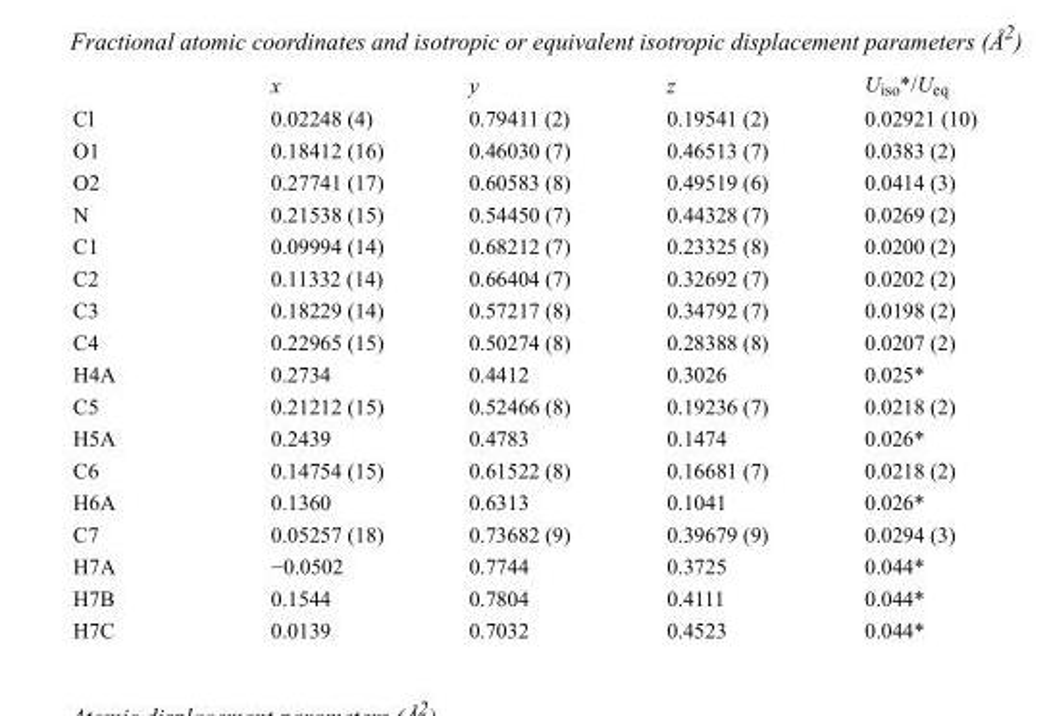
<table><thead><tr><td></td><td>x</td><td>y</td><td>z</td><td>U<sub>iso</sub>*/U<sub>eq</sub></td></tr></thead><tbody><tr><td>Cl</td><td>0.02248 (4)</td><td>0.79411 (2)</td><td>0.19541 (2)</td><td>0.02921 (10)</td></tr><tr><td>O1</td><td>0.18412 (16)</td><td>0.46030 (7)</td><td>0.46513 (7)</td><td>0.0383 (2)</td></tr><tr><td>O2</td><td>0.27741 (17)</td><td>0.60583 (8)</td><td>0.49519 (6)</td><td>0.0414 (3)</td></tr><tr><td>N</td><td>0.21538 (15)</td><td>0.54450 (7)</td><td>0.44328 (7)</td><td>0.0269 (2)</td></tr><tr><td>C1</td><td>0.09994 (14)</td><td>0.68212 (7)</td><td>0.23325 (8)</td><td>0.0200 (2)</td></tr><tr><td>C2</td><td>0.11332 (14)</td><td>0.66404 (7)</td><td>0.32692 (7)</td><td>0.0202 (2)</td></tr><tr><td>C3</td><td>0.18229 (14)</td><td>0.57217 (8)</td><td>0.34792 (7)</td><td>0.0198 (2)</td></tr><tr><td>C4</td><td>0.22965 (15)</td><td>0.50274 (8)</td><td>0.28388 (8)</td><td>0.0207 (2)</td></tr><tr><td>H4A</td><td>0.2734</td><td>0.4412</td><td>0.3026</td><td>0.025*</td></tr><tr><td>C5</td><td>0.21212 (15)</td><td>0.52466 (8)</td><td>0.19236 (7)</td><td>0.0218 (2)</td></tr><tr><td>H5A</td><td>0.2439</td><td>0.4783</td><td>0.1474</td><td>0.026*</td></tr><tr><td>C6</td><td>0.14754 (15)</td><td>0.61522 (8)</td><td>0.16681 (7)</td><td>0.0218 (2)</td></tr><tr><td>H6A</td><td>0.1360</td><td>0.6313</td><td>0.1041</td><td>0.026*</td></tr><tr><td>C7</td><td>0.05257 (18)</td><td>0.73682 (9)</td><td>0.39679 (9)</td><td>0.0294 (3)</td></tr><tr><td>H7A</td><td>−0.0502</td><td>0.7744</td><td>0.3725</td><td>0.044*</td></tr><tr><td>H7B</td><td>0.1544</td><td>0.7804</td><td>0.4111</td><td>0.044*</td></tr><tr><td>H7C</td><td>0.0139</td><td>0.7032</td><td>0.4523</td><td>0.044*</td></tr></tbody></table>